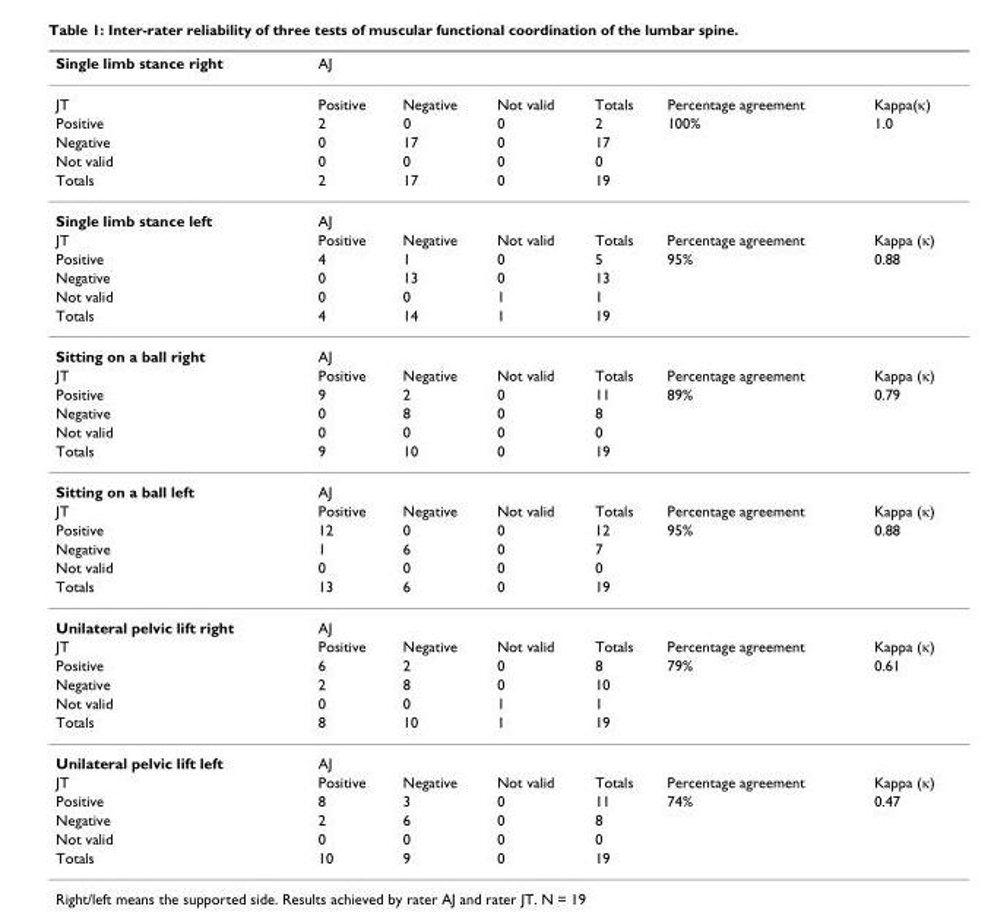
<table><thead><tr><td>Single limb stance right</td><td>AJ</td><td></td><td></td><td></td><td></td><td></td></tr></thead><tbody><tr><td>JT</td><td>Positive</td><td>Negative</td><td>Not valid</td><td>Totals</td><td>Percentage agreement</td><td>Kappa(κ)</td></tr><tr><td>Positive</td><td>2</td><td>0</td><td>0</td><td>2</td><td>100%</td><td>1.0</td></tr><tr><td>Negative</td><td>0</td><td>17</td><td>0</td><td>17</td><td></td><td></td></tr><tr><td>Not valid</td><td>0</td><td>0</td><td>0</td><td>0</td><td></td><td></td></tr><tr><td>Totals</td><td>2</td><td>17</td><td>0</td><td>19</td><td></td><td></td></tr><tr><td>Single limb stance left</td><td>AJ</td><td></td><td></td><td></td><td></td><td></td></tr><tr><td>JT</td><td>Positive</td><td>Negative</td><td>Not valid</td><td>Totals</td><td>Percentage agreement</td><td>Kappa (κ)</td></tr><tr><td>Positive</td><td>4</td><td>1</td><td>0</td><td>5</td><td>95%</td><td>0.88</td></tr><tr><td>Negative</td><td>0</td><td>13</td><td>0</td><td>13</td><td></td><td></td></tr><tr><td>Not valid</td><td>0</td><td>0</td><td>1</td><td>1</td><td></td><td></td></tr><tr><td>Totals</td><td>4</td><td>14</td><td>1</td><td>19</td><td></td><td></td></tr><tr><td>Sitting on a ball right</td><td>AJ</td><td></td><td></td><td></td><td></td><td></td></tr><tr><td>JT</td><td>Positive</td><td>Negative</td><td>Not valid</td><td>Totals</td><td>Percentage agreement</td><td>Kappa (κ)</td></tr><tr><td>Positive</td><td>9</td><td>2</td><td>0</td><td>11</td><td>89%</td><td>0.79</td></tr><tr><td>Negative</td><td>0</td><td>8</td><td>0</td><td>8</td><td></td><td></td></tr><tr><td>Not valid</td><td>0</td><td>0</td><td>0</td><td>0</td><td></td><td></td></tr><tr><td>Totals</td><td>9</td><td>10</td><td>0</td><td>19</td><td></td><td></td></tr><tr><td>Sitting on a ball left</td><td>AJ</td><td></td><td></td><td></td><td></td><td></td></tr><tr><td>JT</td><td>Positive</td><td>Negative</td><td>Not valid</td><td>Totals</td><td>Percentage agreement</td><td>Kappa (κ)</td></tr><tr><td>Positive</td><td>12</td><td>0</td><td>0</td><td>12</td><td>95%</td><td>0.88</td></tr><tr><td>Negative</td><td>1</td><td>6</td><td>0</td><td>7</td><td></td><td></td></tr><tr><td>Not valid</td><td>0</td><td>0</td><td>0</td><td>0</td><td></td><td></td></tr><tr><td>Totals</td><td>13</td><td>6</td><td>0</td><td>19</td><td></td><td></td></tr><tr><td>Unilateral pelvic lift right</td><td>AJ</td><td></td><td></td><td></td><td></td><td></td></tr><tr><td>JT</td><td>Positive</td><td>Negative</td><td>Not valid</td><td>Totals</td><td>Percentage agreement</td><td>Kappa (κ)</td></tr><tr><td>Positive</td><td>6</td><td>2</td><td>0</td><td>8</td><td>79%</td><td>0.61</td></tr><tr><td>Negative</td><td>2</td><td>8</td><td>0</td><td>10</td><td></td><td></td></tr><tr><td>Not valid</td><td>0</td><td>0</td><td>1</td><td>1</td><td></td><td></td></tr><tr><td>Totals</td><td>8</td><td>10</td><td>1</td><td>19</td><td></td><td></td></tr><tr><td>Unilateral pelvic lift left</td><td>AJ</td><td></td><td></td><td></td><td></td><td></td></tr><tr><td>JT</td><td>Positive</td><td>Negative</td><td>Not valid</td><td>Totals</td><td>Percentage agreement</td><td>Kappa (κ)</td></tr><tr><td>Positive</td><td>8</td><td>3</td><td>0</td><td>11</td><td>74%</td><td>0.47</td></tr><tr><td>Negative</td><td>2</td><td>6</td><td>0</td><td>8</td><td></td><td></td></tr><tr><td>Not valid</td><td>0</td><td>0</td><td>0</td><td>0</td><td></td><td></td></tr><tr><td>Totals</td><td>10</td><td>9</td><td>0</td><td>19</td><td></td><td></td></tr></tbody></table>